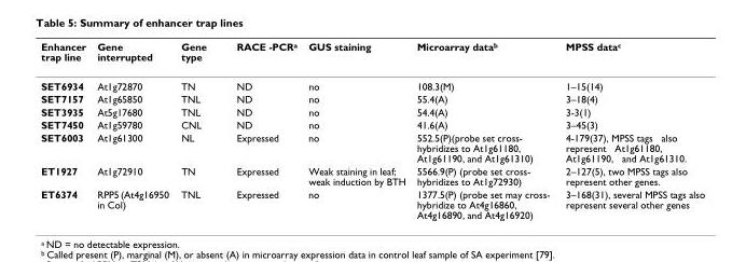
<table><thead><tr><td>Enhancer trap line</td><td>Gene interrupted</td><td>Gene type</td><td>RACE -PCR<sup>a</sup></td><td>GUS staining</td><td>Microarray data<sup>b</sup></td><td>MPSS data<sup>c</sup></td></tr></thead><tbody><tr><td>SET6934</td><td>At1g72870</td><td>TN</td><td>ND</td><td>no</td><td>108.3(M)</td><td>1–15(14)</td></tr><tr><td>SET7157</td><td>At1g65850</td><td>TNL</td><td>ND</td><td>no</td><td>55.4(A)</td><td>3–18(4)</td></tr><tr><td>SET3935</td><td>At5g17680</td><td>TNL</td><td>ND</td><td>no</td><td>54.4(A)</td><td>3-3(1)</td></tr><tr><td>SET7450</td><td>At1g59780</td><td>CNL</td><td>ND</td><td>no</td><td>41.6(A)</td><td>3–45(3)</td></tr><tr><td>SET6003</td><td>At1g61300</td><td>NL</td><td>Expressed</td><td>no</td><td>552.5(P)(probe set cross- hybridizes to At1g61180, At1g61190, and At1g61310)</td><td>4-179(37), MPSS tags also represent At1g61180, At1g61190, and At1g61310.</td></tr><tr><td>ET1927</td><td>At1g72910</td><td>TN</td><td>Expressed</td><td>Weak staining in leaf; weak induction by BTH</td><td>5566.9(P) (probe set cross- hybridizes to At1g72930)</td><td>2–127(5), two MPSS tags also represent other genes.</td></tr><tr><td>ET6374</td><td>RPP5 (At4g16950 in Col)</td><td>TNL</td><td>Expressed</td><td>no</td><td>1377.5(P) (probe set may cross- hybridize to At4g16860, At4g16890, and At4g16920)</td><td>3–168(31), several MPSS tags also represent several other genes</td></tr></tbody></table>